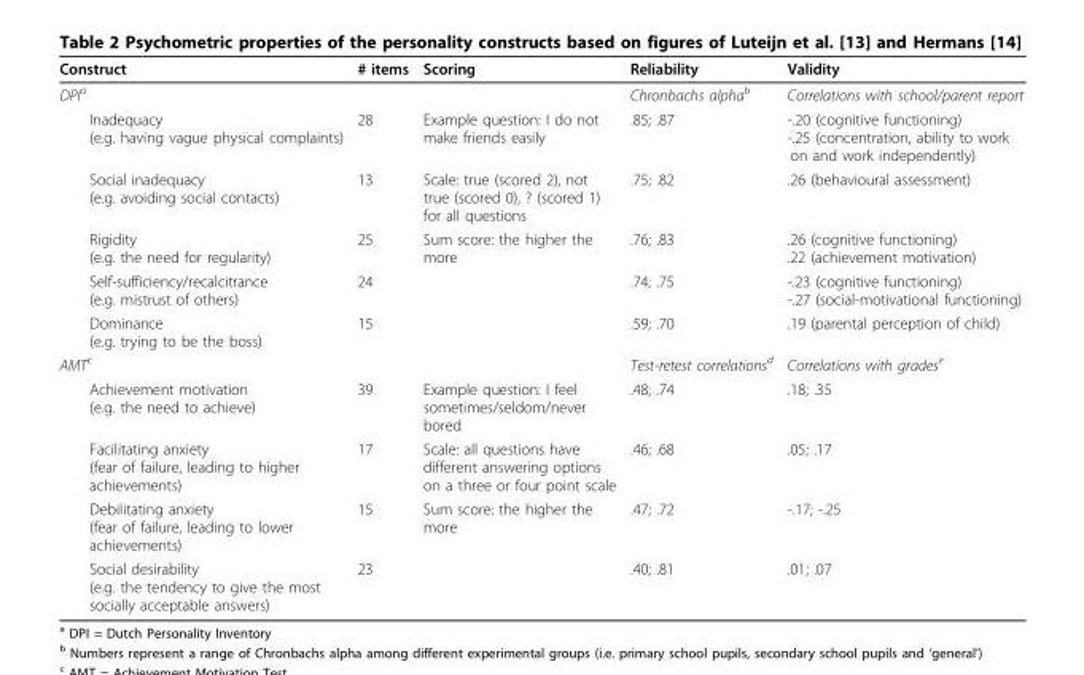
<table><thead><tr><td>Construct</td><td># items</td><td>Scoring</td><td>Reliability</td><td>Validity</td></tr></thead><tbody><tr><td>DPI<sup>a</sup></td><td></td><td></td><td>Chronbachs alpha<sup>b</sup></td><td>Correlations with school/parent report</td></tr><tr><td>Inadequacy (e.g. having vague physical complaints)</td><td>28</td><td>Example question: I do not make friends easily</td><td>.85; .87</td><td>-.20 (cognitive functioning) -.25 (concentration, ability to work on and work independently)</td></tr><tr><td>Social inadequacy (e.g. avoiding social contacts)</td><td>13</td><td>Scale: true (scored 2), not true (scored 0), ? (scored 1) for all questions</td><td>.75; .82</td><td>.26 (behavioural assessment)</td></tr><tr><td>Rigidity (e.g. the need for regularity)</td><td>25</td><td>Sum score: the higher the more</td><td>.76; .83</td><td>.26 (cognitive functioning) .22 (achievement motivation)</td></tr><tr><td>Self-sufficiency/recalcitrance (e.g. mistrust of others)</td><td>24</td><td></td><td>.74; .75</td><td>-.23 (cognitive functioning) -.27 (social-motivational functioning)</td></tr><tr><td>Dominance (e.g. trying to be the boss)</td><td>15</td><td></td><td>.59; .70</td><td>.19 (parental perception of child)</td></tr><tr><td>AMT<sup>c</sup></td><td></td><td></td><td>Test-retest correlations<sup>d</sup></td><td>Correlations with grades<sup>e</sup></td></tr><tr><td>Achievement motivation (e.g. the need to achieve)</td><td>39</td><td>Example question: I feel sometimes/seldom/never bored</td><td>.48; .74</td><td>.18; .35</td></tr><tr><td>Facilitating anxiety (fear of failure, leading to higher achievements)</td><td>17</td><td>Scale: all questions have different answering options on a three or four point scale</td><td>.46; .68</td><td>.05; .17</td></tr><tr><td>Debilitating anxiety (fear of failure, leading to lower achievements)</td><td>15</td><td>Sum score: the higher the more</td><td>.47; .72</td><td>-.17; -.25</td></tr><tr><td>Social desirability (e.g. the tendency to give the most socially acceptable answers)</td><td>23</td><td></td><td>.40; .81</td><td>.01; .07</td></tr></tbody></table>